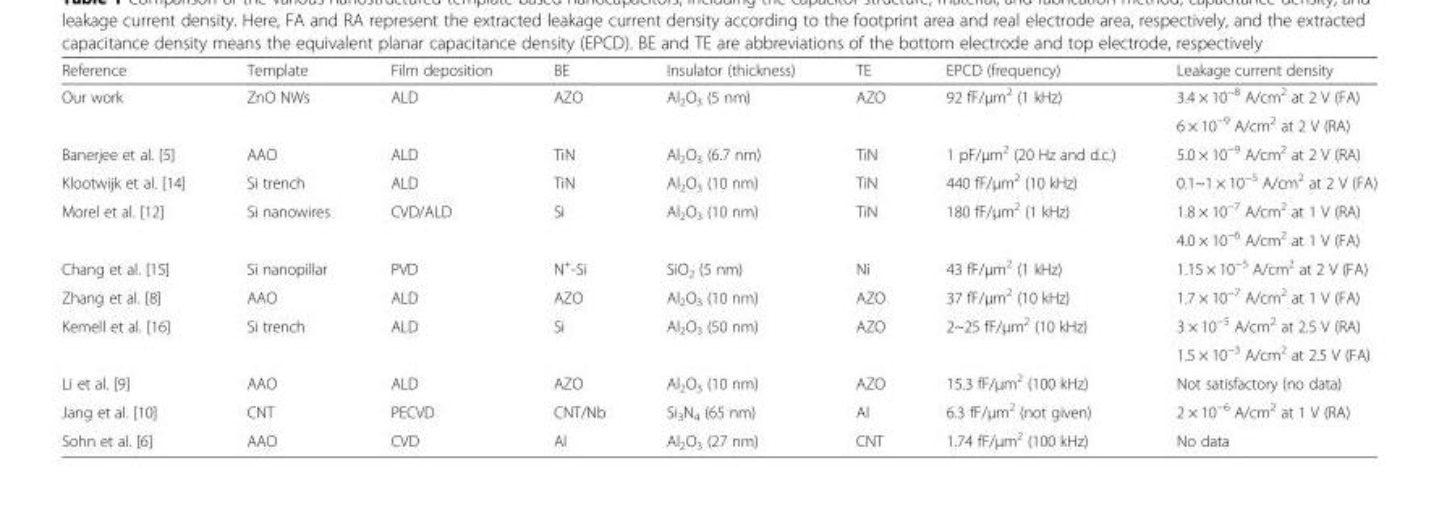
<table><thead><tr><td>Reference</td><td>Template</td><td>Film deposition</td><td>BE</td><td>Insulator (thickness)</td><td>TE</td><td>EPCD (frequency)</td><td>Leakage current density</td></tr></thead><tbody><tr><td rowspan="2">Our work</td><td rowspan="2">ZnO NWs</td><td rowspan="2">ALD</td><td rowspan="2">AZO</td><td rowspan="2">Al<sub>2</sub>O<sub>3</sub> (5 nm)</td><td rowspan="2">AZO</td><td rowspan="2">92 fF/μm<sup>2</sup> (1 kHz)</td><td>3.4 × 10<sup>−8</sup> A/cm<sup>2</sup> at 2 V (FA)</td></tr><tr><td>6 × 10<sup>−9</sup> A/cm<sup>2</sup> at 2 V (RA)</td></tr><tr><td>Banerjee et al. [5]</td><td>AAO</td><td>ALD</td><td>TiN</td><td>Al<sub>2</sub>O<sub>3</sub> (6.7 nm)</td><td>TiN</td><td>1 pF/μm<sup>2</sup> (20 Hz and d.c.)</td><td>5.0 × 10<sup>−9</sup> A/cm<sup>2</sup> at 2 V (RA)</td></tr><tr><td>Klootwijk et al. [14]</td><td>Si trench</td><td>ALD</td><td>TiN</td><td>Al<sub>2</sub>O<sub>3</sub> (10 nm)</td><td>TiN</td><td>440 fF/μm<sup>2</sup> (10 kHz)</td><td>0.1~1 × 10<sup>−5</sup> A/cm<sup>2</sup> at 2 V (FA)</td></tr><tr><td rowspan="2">Morel et al. [12]</td><td rowspan="2">Si nanowires</td><td rowspan="2">CVD/ALD</td><td rowspan="2">Si</td><td rowspan="2">Al<sub>2</sub>O<sub>3</sub> (10 nm)</td><td rowspan="2">TiN</td><td rowspan="2">180 fF/μm<sup>2</sup> (1 kHz)</td><td>1.8 × 10<sup>−7</sup> A/cm<sup>2</sup> at 1 V (RA)</td></tr><tr><td>4.0 × 10<sup>−6</sup> A/cm<sup>2</sup> at 1 V (FA)</td></tr><tr><td>Chang et al. [15]</td><td>Si nanopillar</td><td>PVD</td><td>N<sup>+</sup>-Si</td><td>SiO<sub>2</sub> (5 nm)</td><td>Ni</td><td>43 fF/μm<sup>2</sup> (1 kHz)</td><td>1.15 × 10<sup>−5</sup> A/cm<sup>2</sup> at 2 V (FA)</td></tr><tr><td>Zhang et al. [8]</td><td>AAO</td><td>ALD</td><td>AZO</td><td>Al<sub>2</sub>O<sub>3</sub> (10 nm)</td><td>AZO</td><td>37 fF/μm<sup>2</sup> (10 kHz)</td><td>1.7 × 10<sup>−7</sup> A/cm<sup>2</sup> at 1 V (FA)</td></tr><tr><td rowspan="2">Kemell et al. [16]</td><td rowspan="2">Si trench</td><td rowspan="2">ALD</td><td rowspan="2">Si</td><td rowspan="2">Al<sub>2</sub>O<sub>3</sub> (50 nm)</td><td rowspan="2">AZO</td><td rowspan="2">2~25 fF/μm<sup>2</sup> (10 kHz)</td><td>3 × 10<sup>−5</sup> A/cm<sup>2</sup> at 2.5 V (RA)</td></tr><tr><td>1.5 × 10<sup>−3</sup> A/cm<sup>2</sup> at 2.5 V (FA)</td></tr><tr><td>Li et al. [9]</td><td>AAO</td><td>ALD</td><td>AZO</td><td>Al<sub>2</sub>O<sub>3</sub> (10 nm)</td><td>AZO</td><td>15.3 fF/μm<sup>2</sup> (100 kHz)</td><td>Not satisfactory (no data)</td></tr><tr><td>Jang et al. [10]</td><td>CNT</td><td>PECVD</td><td>CNT/Nb</td><td>Si<sub>3</sub>N<sub>4</sub> (65 nm)</td><td>Al</td><td>6.3 fF/μm<sup>2</sup> (not given)</td><td>2 × 10<sup>−6</sup> A/cm<sup>2</sup> at 1 V (RA)</td></tr><tr><td>Sohn et al. [6]</td><td>AAO</td><td>CVD</td><td>Al</td><td>Al<sub>2</sub>O<sub>3</sub> (27 nm)</td><td>CNT</td><td>1.74 fF/μm<sup>2</sup> (100 kHz)</td><td>No data</td></tr></tbody></table>